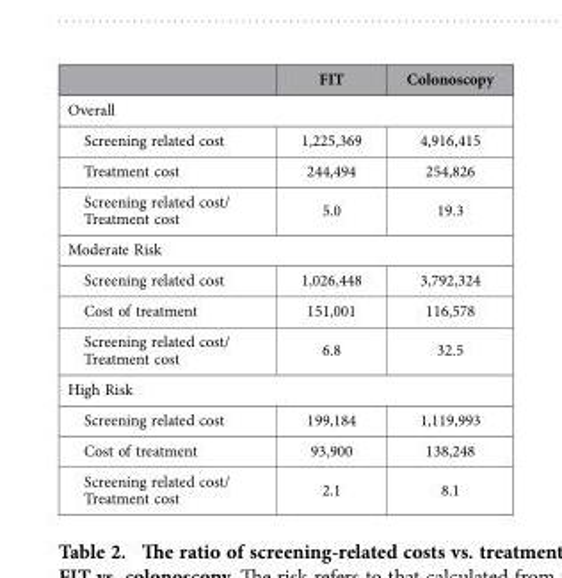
<table><thead><tr><td></td><td>FIT</td><td>Colonoscopy</td></tr></thead><tbody><tr><td colspan="3">Overall</td></tr><tr><td>Screening related cost</td><td>1,225,369</td><td>4,916,415</td></tr><tr><td>Treatment cost</td><td>244,494</td><td>254,826</td></tr><tr><td>Screening related cost/ Treatment cost</td><td>5.0</td><td>19.3</td></tr><tr><td colspan="3">Moderate Risk</td></tr><tr><td>Screening related cost</td><td>1,026,448</td><td>3,792,324</td></tr><tr><td>Cost of treatment</td><td>151,001</td><td>116,578</td></tr><tr><td>Screening related cost/ Treatment cost</td><td>6.8</td><td>32.5</td></tr><tr><td colspan="3">High Risk</td></tr><tr><td>Screening related cost</td><td>199,184</td><td>1,119,993</td></tr><tr><td>Cost of treatment</td><td>93,900</td><td>138,248</td></tr><tr><td>Screening related cost/ Treatment cost</td><td>2.1</td><td>8.1</td></tr></tbody></table>